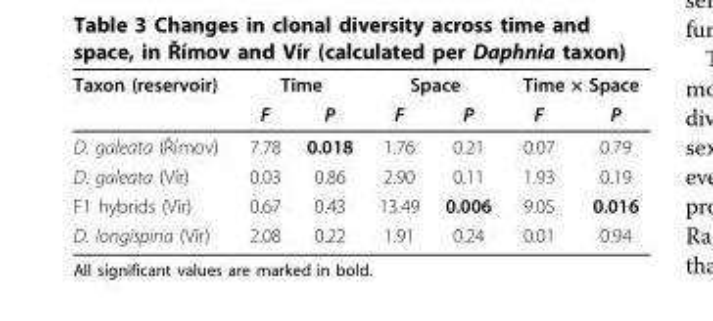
<table><thead><tr><td rowspan="2">Taxon (reservoir)</td><td colspan="2">Time</td><td colspan="2">Space</td><td colspan="2">Time × Space</td></tr><tr><td>F</td><td>P</td><td>F</td><td>P</td><td>F</td><td>P</td></tr></thead><tbody><tr><td>D. galeata (Římov)</td><td>7.78</td><td>0.018</td><td>1.76</td><td>0.21</td><td>0.07</td><td>0.79</td></tr><tr><td>D. galeata (Vír)</td><td>0.03</td><td>0.86</td><td>2.90</td><td>0.11</td><td>1.93</td><td>0.19</td></tr><tr><td>F1 hybrids (Vír)</td><td>0.67</td><td>0.43</td><td>13.49</td><td>0.006</td><td>9.05</td><td>0.016</td></tr><tr><td>D. longispina (Vír)</td><td>2.08</td><td>0.22</td><td>1.91</td><td>0.24</td><td>0.01</td><td>0.94</td></tr></tbody></table>